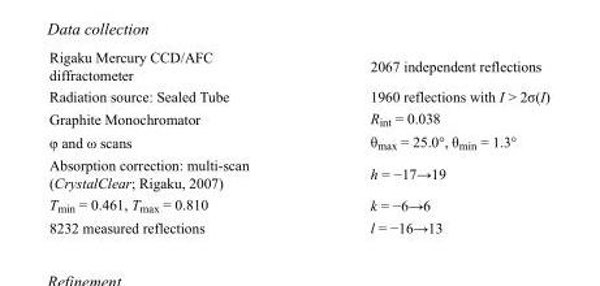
<table><tbody><tr><td>Rigaku Mercury CCD/AFC diffractometer</td><td>2067 independent reflections</td></tr><tr><td>Radiation source: Sealed Tube</td><td>1960 reflections with I &gt; 2σ(I)</td></tr><tr><td>Graphite Monochromator</td><td>R<sub>int</sub> = 0.038</td></tr><tr><td>φ and ω scans</td><td>θ<sub>max</sub> = 25.0°, θ<sub>min</sub> = 1.3°</td></tr><tr><td>Absorption correction: multi-scan (CrystalClear; Rigaku, 2007)</td><td>h = −17→19</td></tr><tr><td>T<sub>min</sub> = 0.461, T<sub>max</sub> = 0.810</td><td>k = −6→6</td></tr><tr><td>8232 measured reflections</td><td>l = −16→13</td></tr></tbody></table>